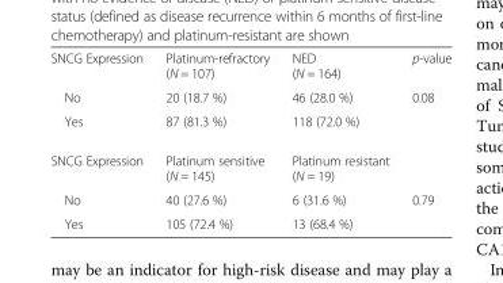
<table><tbody><tr><td>SNCG Expression</td><td>Platinum-refractory (N = 107)</td><td>NED (N = 164)</td><td>p-value</td></tr><tr><td>No</td><td>20 (18.7 %)</td><td>46 (28.0 %)</td><td rowspan="2">0.08</td></tr><tr><td>Yes</td><td>87 (81.3 %)</td><td>118 (72.0 %)</td></tr><tr><td>SNCG Expression</td><td>Platinum sensitive (N = 145)</td><td>Platinum resistant (N = 19)</td><td></td></tr><tr><td>No</td><td>40 (27.6 %)</td><td>6 (31.6 %)</td><td rowspan="2">0.79</td></tr><tr><td>Yes</td><td>105 (72.4 %)</td><td>13 (68.4 %)</td></tr></tbody></table>